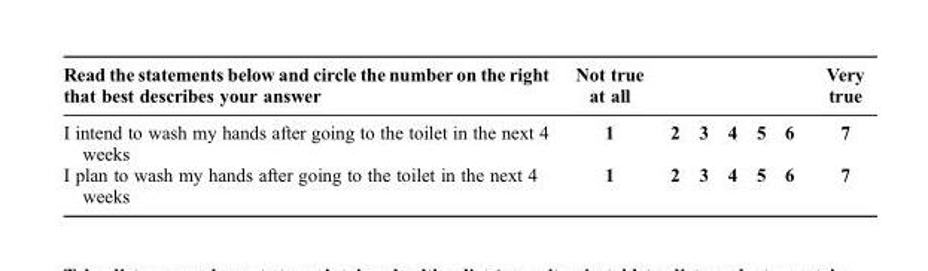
<table><thead><tr><td>Read the statements below and circle the number on the right that best describes your answer</td><td>Not true at all</td><td></td><td></td><td></td><td></td><td></td><td>Very true</td></tr></thead><tbody><tr><td>I intend to wash my hands after going to the toilet in the next 4 weeks</td><td>1</td><td>2</td><td>3</td><td>4</td><td>5</td><td>6</td><td>7</td></tr><tr><td>I plan to wash my hands after going to the toilet in the next 4 weeks</td><td>1</td><td>2</td><td>3</td><td>4</td><td>5</td><td>6</td><td>7</td></tr></tbody></table>